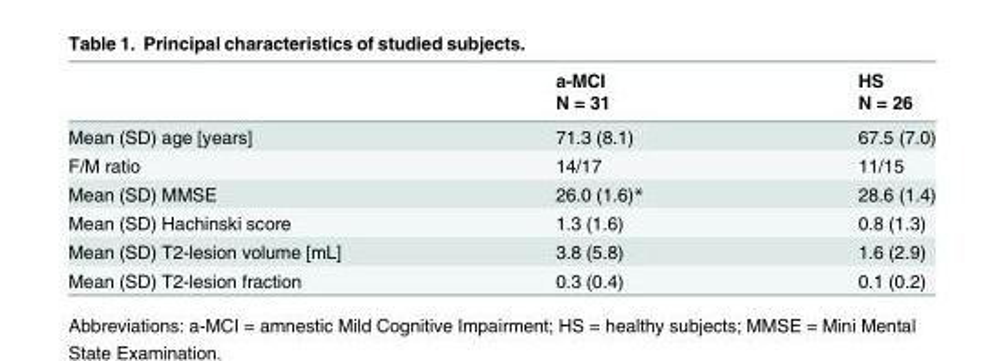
<table><thead><tr><td rowspan="2"></td><td rowspan="2">a-MCI N = 31</td><td rowspan="2">HS N = 26</td></tr><tr></tr></thead><tbody><tr><td>Mean (SD) age [years]</td><td>71.3 (8.1)</td><td>67.5 (7.0)</td></tr><tr><td>F/M ratio</td><td>14/17</td><td>11/15</td></tr><tr><td>Mean (SD) MMSE</td><td>26.0 (1.6)*</td><td>28.6 (1.4)</td></tr><tr><td>Mean (SD) Hachinski score</td><td>1.3 (1.6)</td><td>0.8 (1.3)</td></tr><tr><td>Mean (SD) T2-lesion volume [mL]</td><td>3.8 (5.8)</td><td>1.6 (2.9)</td></tr><tr><td>Mean (SD) T2-lesion fraction</td><td>0.3 (0.4)</td><td>0.1 (0.2)</td></tr></tbody></table>